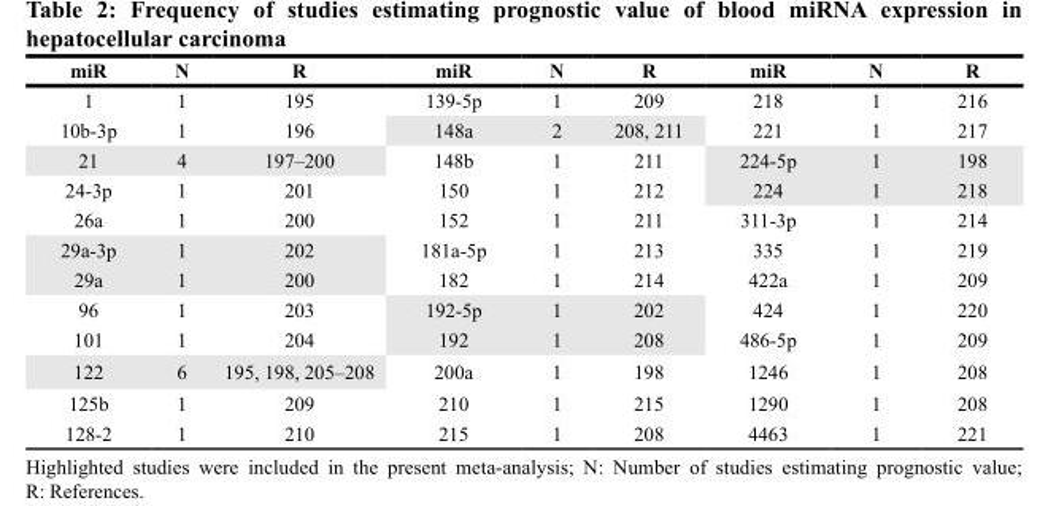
<table><thead><tr><td>miR</td><td>N</td><td>R</td><td>miR</td><td>N</td><td>R</td><td>miR</td><td>N</td><td>R</td></tr></thead><tbody><tr><td>1</td><td>1</td><td>195</td><td>139-5p</td><td>1</td><td>209</td><td>218</td><td>1</td><td>216</td></tr><tr><td>10b-3p</td><td>1</td><td>196</td><td>148a</td><td>2</td><td>208, 211</td><td>221</td><td>1</td><td>217</td></tr><tr><td>21</td><td>4</td><td>197–200</td><td>148b</td><td>1</td><td>211</td><td>224-5p</td><td>1</td><td>198</td></tr><tr><td>24-3p</td><td>1</td><td>201</td><td>150</td><td>1</td><td>212</td><td>224</td><td>1</td><td>218</td></tr><tr><td>26a</td><td>1</td><td>200</td><td>152</td><td>1</td><td>211</td><td>311-3p</td><td>1</td><td>214</td></tr><tr><td>29a-3p</td><td>1</td><td>202</td><td>181a-5p</td><td>1</td><td>213</td><td>335</td><td>1</td><td>219</td></tr><tr><td>29a</td><td>1</td><td>200</td><td>182</td><td>1</td><td>214</td><td>422a</td><td>1</td><td>209</td></tr><tr><td>96</td><td>1</td><td>203</td><td>192-5p</td><td>1</td><td>202</td><td>424</td><td>1</td><td>220</td></tr><tr><td>101</td><td>1</td><td>204</td><td>192</td><td>1</td><td>208</td><td>486-5p</td><td>1</td><td>209</td></tr><tr><td>122</td><td>6</td><td>195, 198, 205–208</td><td>200a</td><td>1</td><td>198</td><td>1246</td><td>1</td><td>208</td></tr><tr><td>125b</td><td>1</td><td>209</td><td>210</td><td>1</td><td>215</td><td>1290</td><td>1</td><td>208</td></tr><tr><td>128-2</td><td>1</td><td>210</td><td>215</td><td>1</td><td>208</td><td>4463</td><td>1</td><td>221</td></tr></tbody></table>